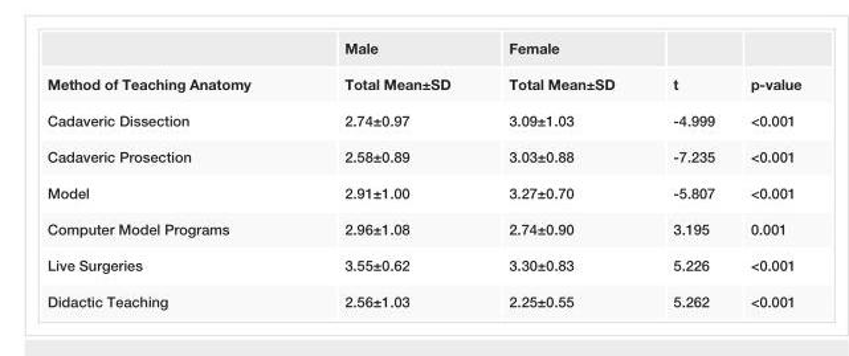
<table><thead><tr><td></td><td>Male</td><td>Female</td><td></td><td></td></tr></thead><tbody><tr><td>Method of Teaching Anatomy</td><td>Total Mean±SD</td><td>Total Mean±SD</td><td>t</td><td>p-value</td></tr><tr><td>Cadaveric Dissection</td><td>2.74±0.97</td><td>3.09±1.03</td><td>-4.999</td><td>&lt;0.001</td></tr><tr><td>Cadaveric Prosection</td><td>2.58±0.89</td><td>3.03±0.88</td><td>-7.235</td><td>&lt;0.001</td></tr><tr><td>Model</td><td>2.91±1.00</td><td>3.27±0.70</td><td>-5.807</td><td>&lt;0.001</td></tr><tr><td>Computer Model Programs</td><td>2.96±1.08</td><td>2.74±0.90</td><td>3.195</td><td>0.001</td></tr><tr><td>Live Surgeries</td><td>3.55±0.62</td><td>3.30±0.83</td><td>5.226</td><td>&lt;0.001</td></tr><tr><td>Didactic Teaching</td><td>2.56±1.03</td><td>2.25±0.55</td><td>5.262</td><td>&lt;0.001</td></tr></tbody></table>